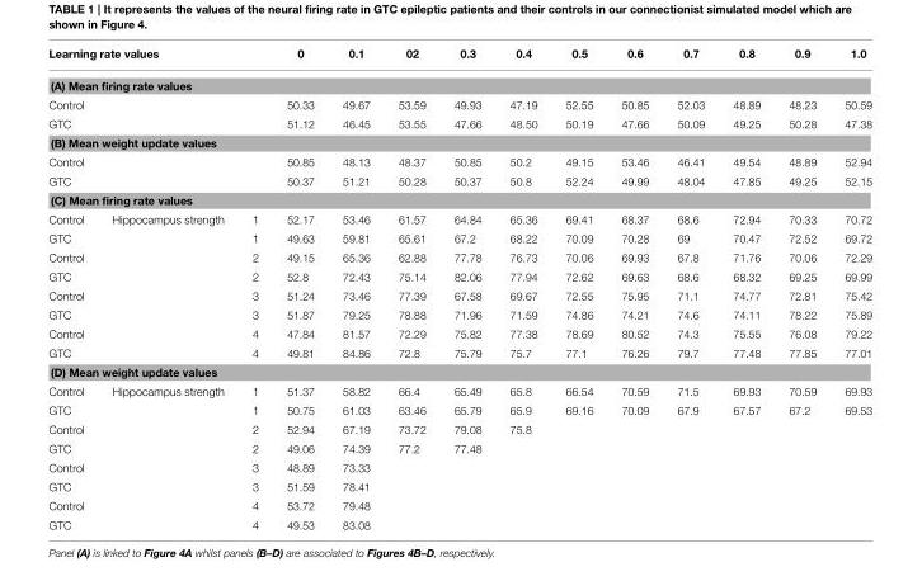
<table><thead><tr><td colspan="3">Learning rate values</td><td>0</td><td>0.1</td><td>02</td><td>0.3</td><td>0.4</td><td>0.5</td><td>0.6</td><td>0.7</td><td>0.8</td><td>0.9</td><td>1.0</td></tr><tr><td colspan="14">(A) Mean firing rate values</td></tr><tr><td>Control</td><td></td><td></td><td>50.33</td><td>49.67</td><td>53.59</td><td>49.93</td><td>47.19</td><td>52.55</td><td>50.85</td><td>52.03</td><td>48.89</td><td>48.23</td><td>50.59</td></tr></thead><tbody><tr><td>GTC</td><td></td><td></td><td>51.12</td><td>46.45</td><td>53.55</td><td>47.66</td><td>48.50</td><td>50.19</td><td>47.66</td><td>50.09</td><td>49.25</td><td>50.28</td><td>47.38</td></tr><tr><td colspan="14">(B) Mean weight update values</td></tr><tr><td>Control</td><td></td><td></td><td>50.85</td><td>48.13</td><td>48.37</td><td>50.85</td><td>50.2</td><td>49.15</td><td>53.46</td><td>46.41</td><td>49.54</td><td>48.89</td><td>52.94</td></tr><tr><td>GTC</td><td></td><td></td><td>50.37</td><td>51.21</td><td>50.28</td><td>50.37</td><td>50.8</td><td>52.24</td><td>49.99</td><td>48.04</td><td>47.85</td><td>49.25</td><td>52.15</td></tr><tr><td colspan="14">(C) Mean firing rate values</td></tr><tr><td>Control</td><td>Hippocampus strength</td><td>1</td><td>52.17</td><td>53.46</td><td>61.57</td><td>64.84</td><td>65.36</td><td>69.41</td><td>68.37</td><td>68.6</td><td>72.94</td><td>70.33</td><td>70.72</td></tr><tr><td>GTC</td><td></td><td>1</td><td>49.63</td><td>59.81</td><td>65.61</td><td>67.2</td><td>68.22</td><td>70.09</td><td>70.28</td><td>69</td><td>70.47</td><td>72.52</td><td>69.72</td></tr><tr><td>Control</td><td></td><td>2</td><td>49.15</td><td>65.36</td><td>62.88</td><td>77.78</td><td>76.73</td><td>70.06</td><td>69.93</td><td>67.8</td><td>71.76</td><td>70.06</td><td>72.29</td></tr><tr><td>GTC</td><td></td><td>2</td><td>52.8</td><td>72.43</td><td>75.14</td><td>82.06</td><td>77.94</td><td>72.62</td><td>69.63</td><td>68.6</td><td>68.32</td><td>69.25</td><td>69.99</td></tr><tr><td>Control</td><td></td><td>3</td><td>51.24</td><td>73.46</td><td>77.39</td><td>67.58</td><td>69.67</td><td>72.55</td><td>75.95</td><td>71.1</td><td>74.77</td><td>72.81</td><td>75.42</td></tr><tr><td>GTC</td><td></td><td>3</td><td>51.87</td><td>79.25</td><td>78.88</td><td>71.96</td><td>71.59</td><td>74.86</td><td>74.21</td><td>74.6</td><td>74.11</td><td>78.22</td><td>75.89</td></tr><tr><td>Control</td><td></td><td>4</td><td>47.84</td><td>81.57</td><td>72.29</td><td>75.82</td><td>77.38</td><td>78.69</td><td>80.52</td><td>74.3</td><td>75.55</td><td>76.08</td><td>79.22</td></tr><tr><td>GTC</td><td></td><td>4</td><td>49.81</td><td>84.86</td><td>72.8</td><td>75.79</td><td>75.7</td><td>77.1</td><td>76.26</td><td>79.7</td><td>77.48</td><td>77.85</td><td>77.01</td></tr><tr><td colspan="14">(D) Mean weight update values</td></tr><tr><td>Control</td><td>Hippocampus strength</td><td>1</td><td>51.37</td><td>58.82</td><td>66.4</td><td>65.49</td><td>65.8</td><td>66.54</td><td>70.59</td><td>71.5</td><td>69.93</td><td>70.59</td><td>69.93</td></tr><tr><td>GTC</td><td></td><td>1</td><td>50.75</td><td>61.03</td><td>63.46</td><td>65.79</td><td>65.9</td><td>69.16</td><td>70.09</td><td>67.9</td><td>67.57</td><td>67.2</td><td>69.53</td></tr><tr><td>Control</td><td></td><td>2</td><td>52.94</td><td>67.19</td><td>73.72</td><td>79.08</td><td>75.8</td><td></td><td></td><td></td><td></td><td></td><td></td></tr><tr><td>GTC</td><td></td><td>2</td><td>49.06</td><td>74.39</td><td>77.2</td><td>77.48</td><td></td><td></td><td></td><td></td><td></td><td></td><td></td></tr><tr><td>Control</td><td></td><td>3</td><td>48.89</td><td>73.33</td><td></td><td></td><td></td><td></td><td></td><td></td><td></td><td></td><td></td></tr><tr><td>GTC</td><td></td><td>3</td><td>51.59</td><td>78.41</td><td></td><td></td><td></td><td></td><td></td><td></td><td></td><td></td><td></td></tr><tr><td>Control</td><td></td><td>4</td><td>53.72</td><td>79.48</td><td></td><td></td><td></td><td></td><td></td><td></td><td></td><td></td><td></td></tr><tr><td>GTC</td><td></td><td>4</td><td>49.53</td><td>83.08</td><td></td><td></td><td></td><td></td><td></td><td></td><td></td><td></td><td></td></tr></tbody></table>